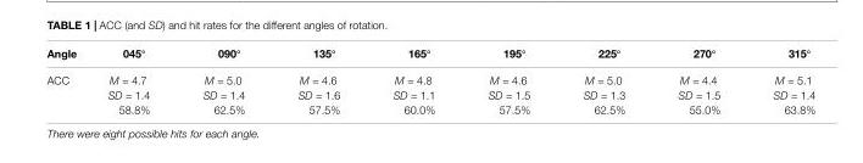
<table><thead><tr><td>Angle</td><td>045◦</td><td>090◦</td><td>135◦</td><td>165◦</td><td>195◦</td><td>225◦</td><td>270◦</td><td>315◦</td></tr></thead><tbody><tr><td rowspan="3">ACC</td><td>M = 4.7</td><td>M = 5.0</td><td>M = 4.6</td><td>M = 4.8</td><td>M = 4.6</td><td>M = 5.0</td><td>M = 4.4</td><td>M = 5.1</td></tr><tr><td>SD = 1.4</td><td>SD = 1.4</td><td>SD = 1.6</td><td>SD = 1.1</td><td>SD = 1.5</td><td>SD = 1.3</td><td>SD = 1.5</td><td>SD = 1.4</td></tr><tr><td>58.8%</td><td>62.5%</td><td>57.5%</td><td>60.0%</td><td>57.5%</td><td>62.5%</td><td>55.0%</td><td>63.8%</td></tr></tbody></table>